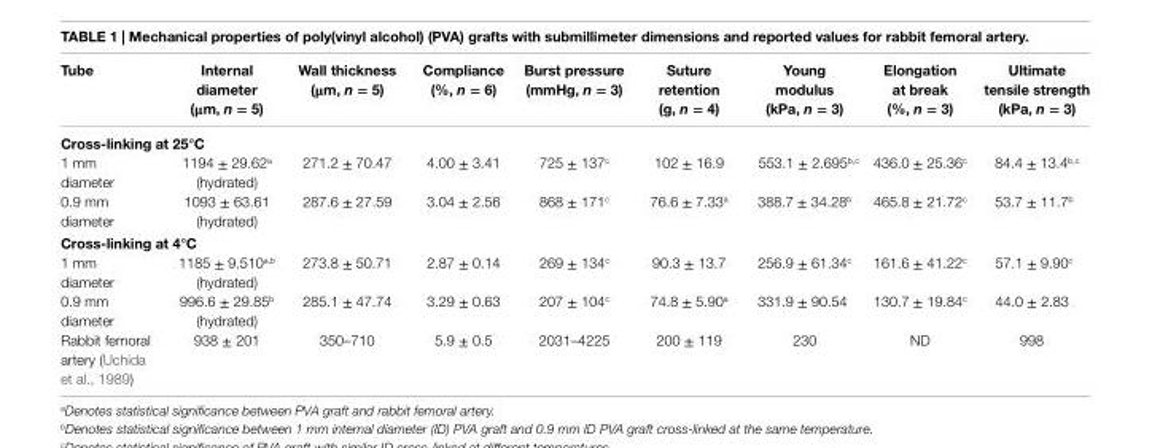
<table><thead><tr><td>Tube</td><td>internal diameter (μm, n = 5)</td><td>Wall thickness (μm, n = 5)</td><td>compliance (%, n = 6)</td><td>Burst pressure (mmhg, n = 3)</td><td>suture retention (g, n = 4)</td><td>Young modulus (kPa, n = 3)</td><td>elongation at break (%, n = 3)</td><td>Ultimate tensile strength (kPa, n = 3)</td></tr></thead><tbody><tr><td colspan="9">cross-linking at 25°c</td></tr><tr><td>1 mm diameter</td><td>1194 ± 29.62<sup>a</sup> (hydrated)</td><td>271.2 ± 70.47</td><td>4.00 ± 3.41</td><td>725 ± 137<sup>c</sup></td><td>102 ± 16.9</td><td>553.1 ± 2.695<sup>b</sup>,<sup>c</sup></td><td>436.0 ± 25.36<sup>c</sup></td><td>84.4 ± 13.4<sup>b</sup>,<sup>c</sup></td></tr><tr><td>0.9 mm diameter</td><td>1093 ± 63.61 (hydrated)</td><td>287.6 ± 27.59</td><td>3.04 ± 2.56</td><td>868 ± 171<sup>c</sup></td><td>76.6 ± 7.33<sup>a</sup></td><td>388.7 ± 34.28<sup>b</sup></td><td>465.8 ± 21.72<sup>c</sup></td><td>53.7 ± 11.7<sup>b</sup></td></tr><tr><td colspan="9">cross-linking at 4°c</td></tr><tr><td>1 mm diameter</td><td>1185 ± 9.510<sup>a</sup>,<sup>b</sup> (hydrated)</td><td>273.8 ± 50.71</td><td>2.87 ± 0.14</td><td>269 ± 134<sup>c</sup></td><td>90.3 ± 13.7</td><td>256.9 ± 61.34<sup>c</sup></td><td>161.6 ± 41.22<sup>c</sup></td><td>57.1 ± 9.90<sup>c</sup></td></tr><tr><td>0.9 mm diameter</td><td>996.6 ± 29.85<sup>b</sup> (hydrated)</td><td>285.1 ± 47.74</td><td>3.29 ± 0.63</td><td>207 ± 104<sup>c</sup></td><td>74.8 ± 5.90<sup>a</sup></td><td>331.9 ± 90.54</td><td>130.7 ± 19.84<sup>c</sup></td><td>44.0 ± 2.83</td></tr><tr><td>Rabbit femoral artery (Uchida et al., 1989)</td><td>938 ± 201</td><td>350–710</td><td>5.9 ± 0.5</td><td>2031–4225</td><td>200 ± 119</td><td>230</td><td>ND</td><td>998</td></tr></tbody></table>